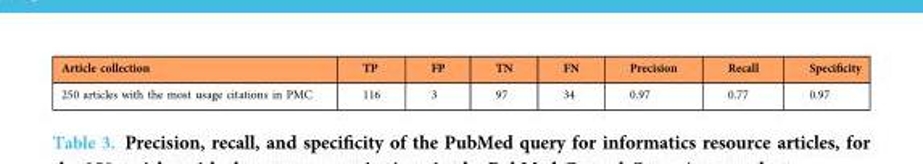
<table><thead><tr><td>Article collection</td><td>TP</td><td>FP</td><td>TN</td><td>FN</td><td>Precision</td><td>Recall</td><td>Specificity</td></tr></thead><tbody><tr><td>250 articles with the most usage citations in PMC</td><td>116</td><td>3</td><td>97</td><td>34</td><td>0.97</td><td>0.77</td><td>0.97</td></tr></tbody></table>